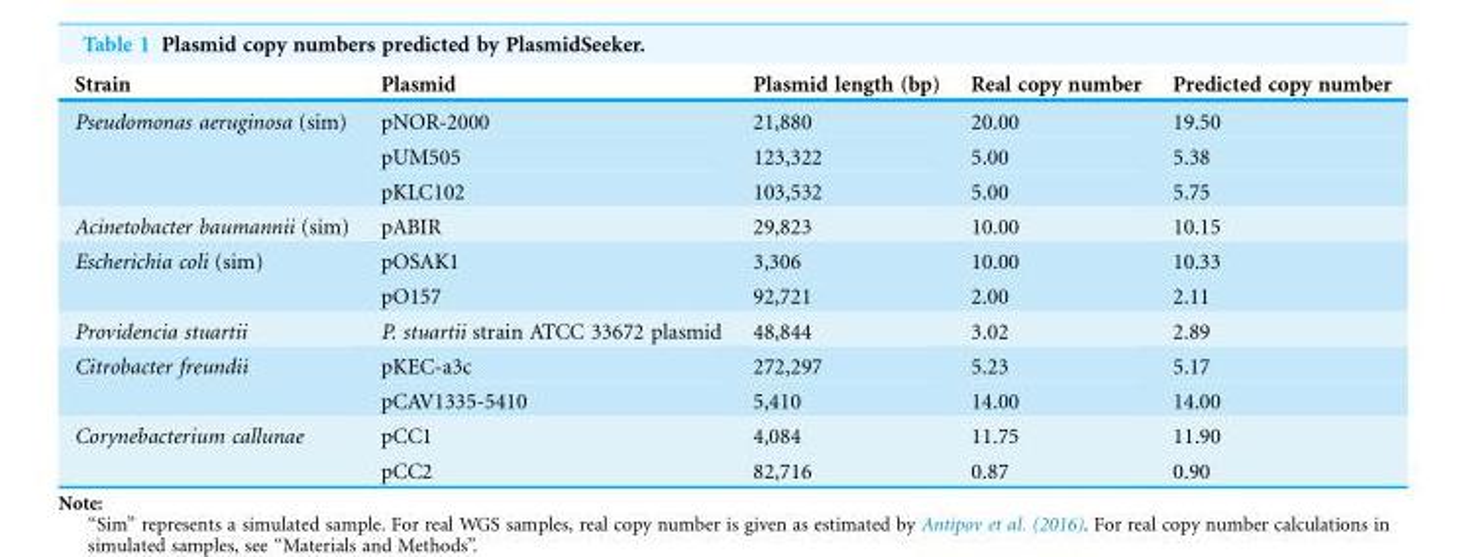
<table><thead><tr><td>Strain</td><td>Plasmid</td><td>Plasmid length (bp)</td><td>Real copy number</td><td>Predicted copy number</td></tr></thead><tbody><tr><td rowspan="3">Pseudomonas aeruginosa (sim)</td><td>pNOR-2000</td><td>21,880</td><td>20.00</td><td>19.50</td></tr><tr><td>pUM505</td><td>123,322</td><td>5.00</td><td>5.38</td></tr><tr><td>pKLC102</td><td>103,532</td><td>5.00</td><td>5.75</td></tr><tr><td>Acinetobacter baumannii (sim)</td><td>pABIR</td><td>29,823</td><td>10.00</td><td>10.15</td></tr><tr><td rowspan="2">Escherichia coli (sim)</td><td>pOSAK1</td><td>3,306</td><td>10.00</td><td>10.33</td></tr><tr><td>pO157</td><td>92,721</td><td>2.00</td><td>2.11</td></tr><tr><td>Providencia stuartii</td><td>P. stuartii strain ATCC 33672 plasmid</td><td>48,844</td><td>3.02</td><td>2.89</td></tr><tr><td rowspan="2">Citrobacter freundii</td><td>pKEC-a3c</td><td>272,297</td><td>5.23</td><td>5.17</td></tr><tr><td>pCAV1335-5410</td><td>5,410</td><td>14.00</td><td>14.00</td></tr><tr><td rowspan="2">Corynebacterium callunae</td><td>pCC1</td><td>4,084</td><td>11.75</td><td>11.90</td></tr><tr><td>pCC2</td><td>82,716</td><td>0.87</td><td>0.90</td></tr></tbody></table>